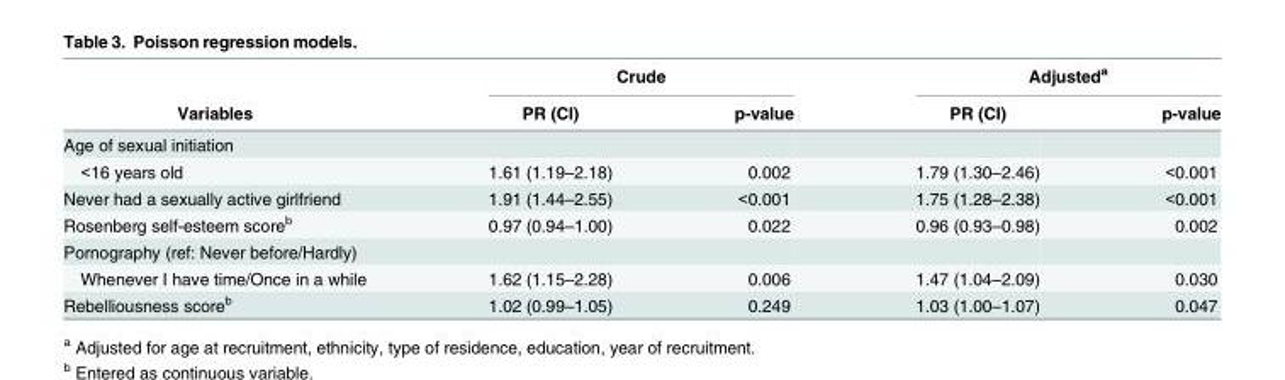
<table><thead><tr><td rowspan="2">Variables</td><td colspan="2">Crude</td><td colspan="2">Adjusted<sup>a</sup></td></tr><tr><td>PR (CI)</td><td>p-value</td><td>PR (CI)</td><td>p-value</td></tr></thead><tbody><tr><td colspan="5">Age of sexual initiation</td></tr><tr><td>&lt;16 years old</td><td>1.61 (1.19–2.18)</td><td>0.002</td><td>1.79 (1.30–2.46)</td><td>&lt;0.001</td></tr><tr><td>Never had a sexually active girlfriend</td><td>1.91 (1.44–2.55)</td><td>&lt;0.001</td><td>1.75 (1.28–2.38)</td><td>&lt;0.001</td></tr><tr><td>Rosenberg self-esteem score<sup>b</sup></td><td>0.97 (0.94–1.00)</td><td>0.022</td><td>0.96 (0.93–0.98)</td><td>0.002</td></tr><tr><td colspan="5">Pornography (ref: Never before/Hardly)</td></tr><tr><td>Whenever I have time/Once in a while</td><td>1.62 (1.15–2.28)</td><td>0.006</td><td>1.47 (1.04–2.09)</td><td>0.030</td></tr><tr><td>Rebelliousness score<sup>b</sup></td><td>1.02 (0.99–1.05)</td><td>0.249</td><td>1.03 (1.00–1.07)</td><td>0.047</td></tr></tbody></table>